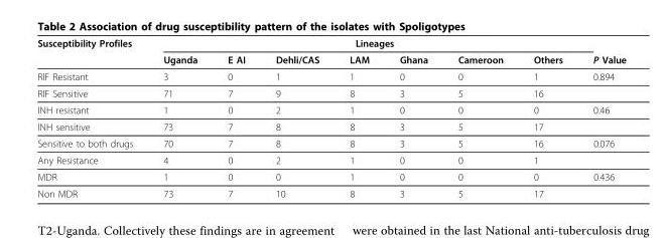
<table><thead><tr><td rowspan="2">Susceptibility Profiles</td><td colspan="7">Lineages</td><td rowspan="2">P Value</td></tr><tr><td>Uganda</td><td>E AI</td><td>Dehli/CAS</td><td>LAM</td><td>Ghana</td><td>Cameroon</td><td>Others</td></tr></thead><tbody><tr><td>RIF Resistant</td><td>3</td><td>0</td><td>1</td><td>1</td><td>0</td><td>0</td><td>1</td><td>0.894</td></tr><tr><td>RIF Sensitive</td><td>71</td><td>7</td><td>9</td><td>8</td><td>3</td><td>5</td><td>16</td><td></td></tr><tr><td>INH resistant</td><td>1</td><td>0</td><td>2</td><td>1</td><td>0</td><td>0</td><td>0</td><td>0.46</td></tr><tr><td>INH sensitive</td><td>73</td><td>7</td><td>8</td><td>8</td><td>3</td><td>5</td><td>17</td><td></td></tr><tr><td>Sensitive to both drugs</td><td>70</td><td>7</td><td>8</td><td>8</td><td>3</td><td>5</td><td>16</td><td>0.076</td></tr><tr><td>Any Resistance</td><td>4</td><td>0</td><td>2</td><td>1</td><td>0</td><td>0</td><td>1</td><td></td></tr><tr><td>MDR</td><td>1</td><td>0</td><td>0</td><td>1</td><td>0</td><td>0</td><td>0</td><td>0.436</td></tr><tr><td>Non MDR</td><td>73</td><td>7</td><td>10</td><td>8</td><td>3</td><td>5</td><td>17</td><td></td></tr></tbody></table>